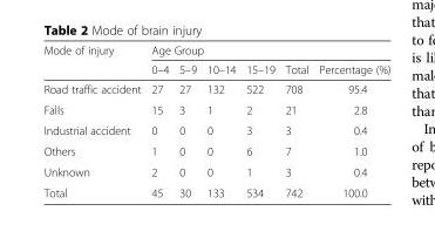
<table><thead><tr><td rowspan="2">Mode of injury</td><td colspan="6">Age Group</td></tr><tr><td>0–4</td><td>5–9</td><td>10–14</td><td>15–19</td><td>Total</td><td>Percentage (%)</td></tr></thead><tbody><tr><td>Road traffic accident</td><td>27</td><td>27</td><td>132</td><td>522</td><td>708</td><td>95.4</td></tr><tr><td>Falls</td><td>15</td><td>3</td><td>1</td><td>2</td><td>21</td><td>2.8</td></tr><tr><td>Industrial accident</td><td>0</td><td>0</td><td>0</td><td>3</td><td>3</td><td>0.4</td></tr><tr><td>Others</td><td>1</td><td>0</td><td>0</td><td>6</td><td>7</td><td>1.0</td></tr><tr><td>Unknown</td><td>2</td><td>0</td><td>0</td><td>1</td><td>3</td><td>0.4</td></tr><tr><td>Total</td><td>45</td><td>30</td><td>133</td><td>534</td><td>742</td><td>100.0</td></tr></tbody></table>